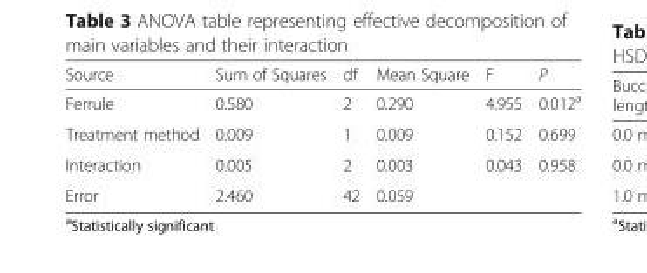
<table><thead><tr><td>Source</td><td>Sum of Squares</td><td>df</td><td>Mean Square</td><td>F</td><td>P</td></tr></thead><tbody><tr><td>Ferrule</td><td>0.580</td><td>2</td><td>0.290</td><td>4.955</td><td>0.012<sup>a</sup></td></tr><tr><td>Treatment method</td><td>0.009</td><td>1</td><td>0.009</td><td>0.152</td><td>0.699</td></tr><tr><td>Interaction</td><td>0.005</td><td>2</td><td>0.003</td><td>0.043</td><td>0.958</td></tr><tr><td>Error</td><td>2.460</td><td>42</td><td>0.059</td><td></td><td></td></tr></tbody></table>